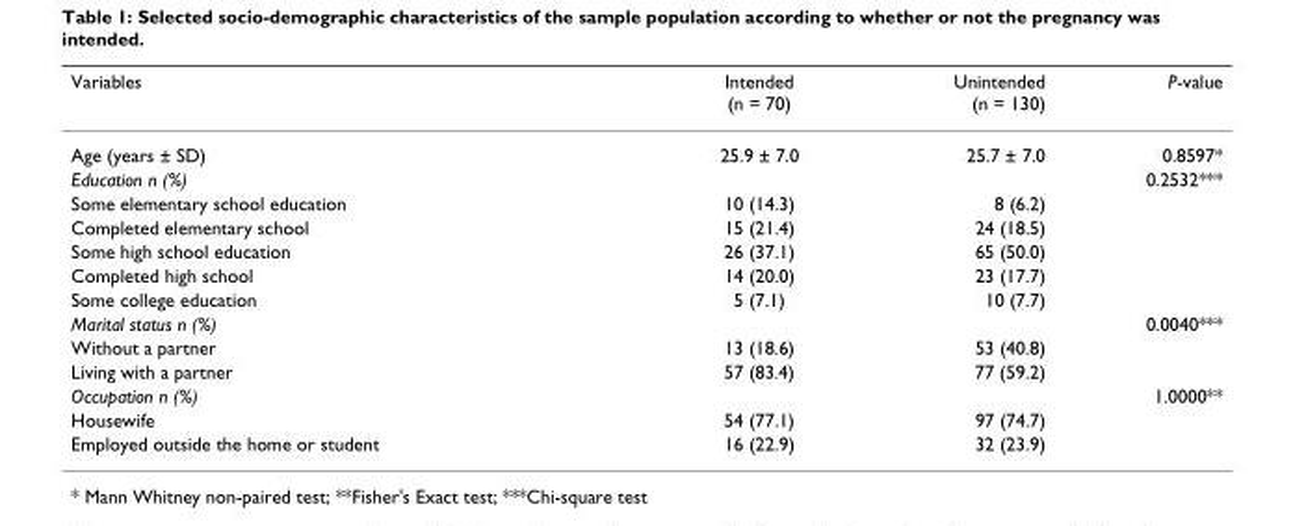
<table><thead><tr><td>Variables</td><td>Intended (n = 70)</td><td>Unintended (n = 130)</td><td>P-value</td></tr></thead><tbody><tr><td>Age (years ± SD)</td><td>25.9 ± 7.0</td><td>25.7 ± 7.0</td><td>0.8597*</td></tr><tr><td>Education n (%)</td><td></td><td></td><td>0.2532***</td></tr><tr><td>Some elementary school education</td><td>10 (14.3)</td><td>8 (6.2)</td><td></td></tr><tr><td>Completed elementary school</td><td>15 (21.4)</td><td>24 (18.5)</td><td></td></tr><tr><td>Some high school education</td><td>26 (37.1)</td><td>65 (50.0)</td><td></td></tr><tr><td>Completed high school</td><td>14 (20.0)</td><td>23 (17.7)</td><td></td></tr><tr><td>Some college education</td><td>5 (7.1)</td><td>10 (7.7)</td><td></td></tr><tr><td>Marital status n (%)</td><td></td><td></td><td>0.0040***</td></tr><tr><td>Without a partner</td><td>13 (18.6)</td><td>53 (40.8)</td><td></td></tr><tr><td>Living with a partner</td><td>57 (83.4)</td><td>77 (59.2)</td><td></td></tr><tr><td>Occupation n (%)</td><td></td><td></td><td>1.0000**</td></tr><tr><td>Housewife</td><td>54 (77.1)</td><td>97 (74.7)</td><td></td></tr><tr><td>Employed outside the home or student</td><td>16 (22.9)</td><td>32 (23.9)</td><td></td></tr></tbody></table>